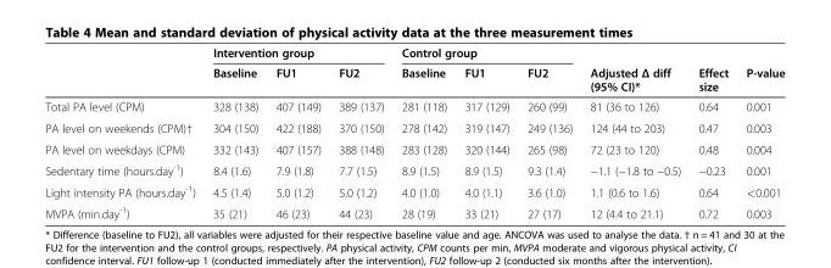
<table><thead><tr><td rowspan="2"></td><td colspan="3">Intervention group</td><td colspan="3">Control group</td><td rowspan="2">Adjusted Δ diff (95% CI)*</td><td rowspan="2">Effect size</td><td rowspan="2">P-value</td></tr><tr><td>Baseline</td><td>FU1</td><td>FU2</td><td>Baseline</td><td>FU1</td><td>FU2</td></tr></thead><tbody><tr><td>Total PA level (CPM)</td><td>328 (138)</td><td>407 (149)</td><td>389 (137)</td><td>281 (118)</td><td>317 (129)</td><td>260 (99)</td><td>81 (36 to 126)</td><td>0.64</td><td>0.001</td></tr><tr><td>PA level on weekends (CPM)†</td><td>304 (150)</td><td>422 (188)</td><td>370 (150)</td><td>278 (142)</td><td>319 (147)</td><td>249 (136)</td><td>124 (44 to 203)</td><td>0.47</td><td>0.003</td></tr><tr><td>PA level on weekdays (CPM)</td><td>332 (143)</td><td>407 (157)</td><td>388 (148)</td><td>283 (128)</td><td>320 (144)</td><td>265 (98)</td><td>72 (23 to 120)</td><td>0.48</td><td>0.004</td></tr><tr><td>Sedentary time (hours.day<sup>-1</sup>)</td><td>8.4 (1.6)</td><td>7.9 (1.8)</td><td>7.7 (1.5)</td><td>8.9 (1.5)</td><td>8.9 (1.5)</td><td>9.3 (1.4)</td><td>−1.1 (−1.8 to −0.5)</td><td>−0.23</td><td>0.001</td></tr><tr><td>Light intensity PA (hours.day<sup>-1</sup>)</td><td>4.5 (1.4)</td><td>5.0 (1.2)</td><td>5.0 (1.2)</td><td>4.0 (1.0)</td><td>4.0 (1.1)</td><td>3.6 (1.0)</td><td>1.1 (0.6 to 1.6)</td><td>0.64</td><td>&lt;0.001</td></tr><tr><td>MVPA (min.day<sup>-1</sup>)</td><td>35 (21)</td><td>46 (23)</td><td>44 (23)</td><td>28 (19)</td><td>33 (21)</td><td>27 (17)</td><td>12 (4.4 to 21.1)</td><td>0.72</td><td>0.003</td></tr></tbody></table>